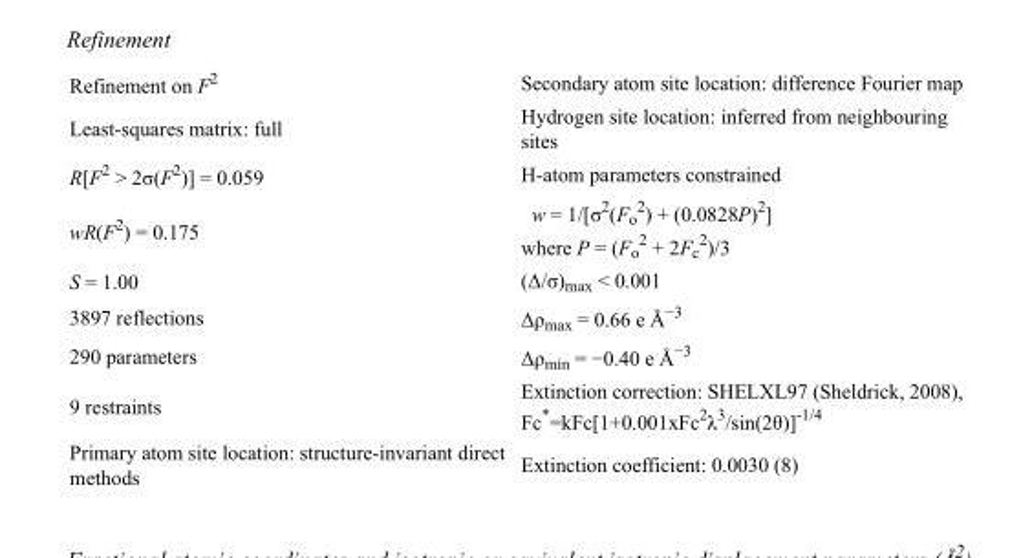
<table><tbody><tr><td>Refinement on F<sup>2</sup></td><td>Secondary atom site location: difference Fourier map</td></tr><tr><td>Least-squares matrix: full</td><td>Hydrogen site location: inferred from neighbouring sites</td></tr><tr><td>R[F<sup>2</sup> &gt; 2σ(F<sup>2</sup>)] = 0.059</td><td>H-atom parameters constrained</td></tr><tr><td>wR(F<sup>2</sup>) = 0.175</td><td>w = 1/[σ<sup>2</sup>(F<sub>o</sub> <sup>2</sup>) + (0.0828P)<sup>2</sup>] where P = (F<sub>o</sub> <sup>2</sup> + 2F<sub>c</sub> <sup>2</sup>)/3</td></tr><tr><td>S = 1.00</td><td>(Δ/σ)<sub>max</sub> &lt; 0.001</td></tr><tr><td>3897 reflections</td><td>Δρ<sub>max</sub> = 0.66 e Å<sup>−3</sup></td></tr><tr><td>290 parameters</td><td>Δρ<sub>min</sub> = −0.40 e Å<sup>−3</sup></td></tr><tr><td>9 restraints</td><td>Extinction correction: SHELXL97 (Sheldrick, 2008), Fc*=kFc[1+0.001xFc<sup>2</sup>λ<sup>3</sup>/sin(2θ)]<sup>-1/4</sup></td></tr><tr><td>Primary atom site location: structure-invariant direct methods</td><td>Extinction coefficient: 0.0030 (8)</td></tr></tbody></table>